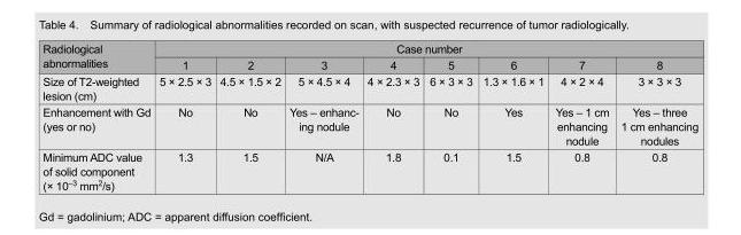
<table><thead><tr><td rowspan="2">Radiological abnormalities</td><td colspan="8">Case number</td></tr><tr><td>1</td><td>2</td><td>3</td><td>4</td><td>5</td><td>6</td><td>7</td><td>8</td></tr></thead><tbody><tr><td>Size of T2-weighted lesion (cm)</td><td>5 × 2.5 × 3</td><td>4.5 × 1.5 × 2</td><td>5 × 4.5 × 4</td><td>4 × 2.3 × 3</td><td>6 × 3 × 3</td><td>1.3 × 1.6 × 1</td><td>4 × 2 × 4</td><td>3 × 3 × 3</td></tr><tr><td>Enhancement with Gd (yes or no)</td><td>No</td><td>No</td><td>Yes – enhanc- ing nodule</td><td>No</td><td>No</td><td>Yes</td><td>Yes – 1 cm enhancing nodule</td><td>Yes – three 1 cm enhancing nodules</td></tr><tr><td>Minimum ADC value of solid component (× 10<sup>–3</sup> mm<sup>2</sup>/s)</td><td>1.3</td><td>1.5</td><td>N/A</td><td>1.8</td><td>0.1</td><td>1.5</td><td>0.8</td><td>0.8</td></tr></tbody></table>